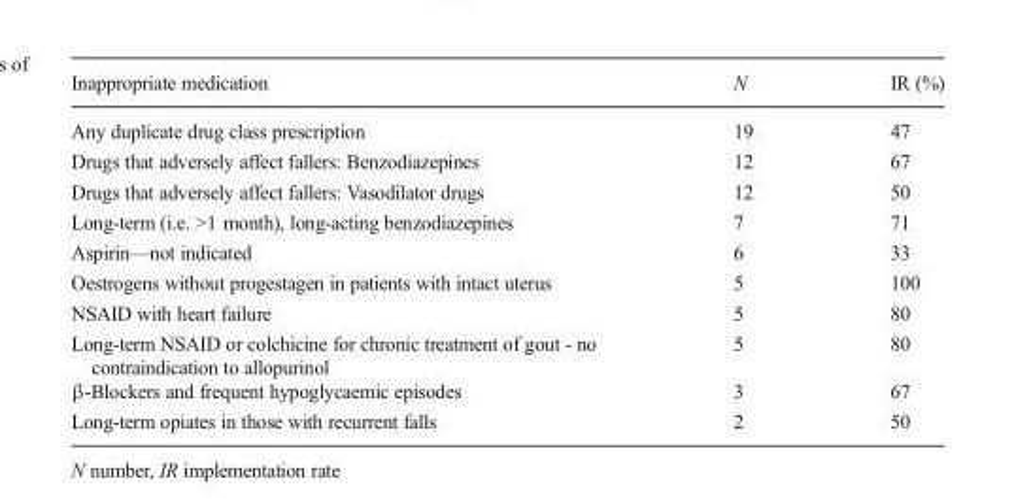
<table><thead><tr><td>Inappropriate medication</td><td>N</td><td>IR (%)</td></tr></thead><tbody><tr><td>Any duplicate drug class prescription</td><td>19</td><td>47</td></tr><tr><td>Drugs that adversely affect fallers: Benzodiazepines</td><td>12</td><td>67</td></tr><tr><td>Drugs that adversely affect fallers: Vasodilator drugs</td><td>12</td><td>50</td></tr><tr><td>Long-term (i.e. &gt;1 month), long-acting benzodiazepines</td><td>7</td><td>71</td></tr><tr><td>Aspirin—not indicated</td><td>6</td><td>33</td></tr><tr><td>Oestrogens without progestagen in patients with intact uterus</td><td>5</td><td>100</td></tr><tr><td>NSAID with heart failure</td><td>5</td><td>80</td></tr><tr><td>Long-term NSAID or colchicine for chronic treatment of gout - no contraindication to allopurinol</td><td>5</td><td>80</td></tr><tr><td>β-Blockers and frequent hypoglycaemic episodes</td><td>3</td><td>67</td></tr><tr><td>Long-term opiates in those with recurrent falls</td><td>2</td><td>50</td></tr></tbody></table>